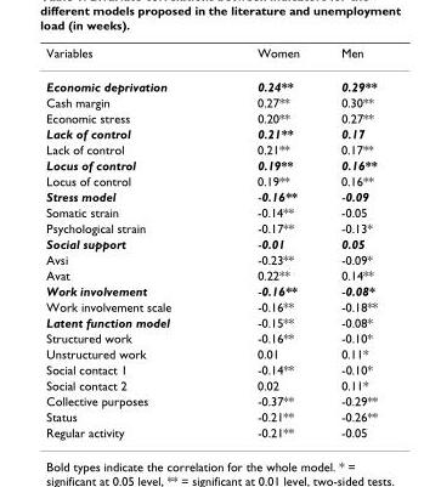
<table><thead><tr><td>Variables</td><td>Women</td><td>Men</td></tr></thead><tbody><tr><td>Economic deprivation</td><td>0.24**</td><td>0.29**</td></tr><tr><td>Cash margin</td><td>0.27**</td><td>0.30**</td></tr><tr><td>Economic stress</td><td>0.20**</td><td>0.27**</td></tr><tr><td>Lack of control</td><td>0.21**</td><td>0.17</td></tr><tr><td>Lack of control</td><td>0.21**</td><td>0.17**</td></tr><tr><td>Locus of control</td><td>0.19**</td><td>0.16**</td></tr><tr><td>Locus of control</td><td>0.19**</td><td>0.16**</td></tr><tr><td>Stress model</td><td>-0.16**</td><td>-0.09</td></tr><tr><td>Somatic strain</td><td>-0.14**</td><td>-0.05</td></tr><tr><td>Psychological strain</td><td>-0.17**</td><td>-0.13*</td></tr><tr><td>Social support</td><td>-0.01</td><td>0.05</td></tr><tr><td>Avsi</td><td>-0.23**</td><td>-0.09*</td></tr><tr><td>Avat</td><td>0.22**</td><td>0.14**</td></tr><tr><td>Work involvement</td><td>-0.16**</td><td>-0.08*</td></tr><tr><td>Work involvement scale</td><td>-0.16**</td><td>-0.18**</td></tr><tr><td>Latent function model</td><td>-0.15**</td><td>-0.08*</td></tr><tr><td>Structured work</td><td>-0.16**</td><td>-0.10*</td></tr><tr><td>Unstructured work</td><td>0.01</td><td>0.11*</td></tr><tr><td>Social contact 1</td><td>-0.14**</td><td>-0.10*</td></tr><tr><td>Social contact 2</td><td>0.02</td><td>0.11*</td></tr><tr><td>Collective purposes</td><td>-0.37**</td><td>-0.29**</td></tr><tr><td>Status</td><td>-0.21**</td><td>-0.26**</td></tr><tr><td>Regular activity</td><td>-0.21**</td><td>-0.05</td></tr></tbody></table>